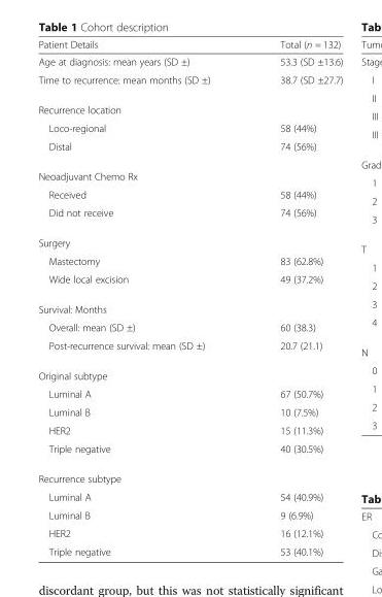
<table><thead><tr><td>Patient Details</td><td>Total (n = 132)</td></tr></thead><tbody><tr><td>Age at diagnosis: mean years (SD ±)</td><td>53.3 (SD ±13.6)</td></tr><tr><td>Time to recurrence: mean months (SD ±)</td><td>38.7 (SD ±27.7)</td></tr><tr><td colspan="2">Recurrence location</td></tr><tr><td>Loco-regional</td><td>58 (44%)</td></tr><tr><td>Distal</td><td>74 (56%)</td></tr><tr><td colspan="2">Neoadjuvant Chemo Rx</td></tr><tr><td>Received</td><td>58 (44%)</td></tr><tr><td>Did not receive</td><td>74 (56%)</td></tr><tr><td colspan="2">Surgery</td></tr><tr><td>Mastectomy</td><td>83 (62.8%)</td></tr><tr><td>Wide local excision</td><td>49 (37.2%)</td></tr><tr><td colspan="2">Survival: Months</td></tr><tr><td>Overall: mean (SD ±)</td><td>60 (38.3)</td></tr><tr><td>Post-recurrence survival: mean (SD ±)</td><td>20.7 (21.1)</td></tr><tr><td colspan="2">Original subtype</td></tr><tr><td>Luminal A</td><td>67 (50.7%)</td></tr><tr><td>Luminal B</td><td>10 (7.5%)</td></tr><tr><td>HER2</td><td>15 (11.3%)</td></tr><tr><td>Triple negative</td><td>40 (30.5%)</td></tr><tr><td colspan="2">Recurrence subtype</td></tr><tr><td>Luminal A</td><td>54 (40.9%)</td></tr><tr><td>Luminal B</td><td>9 (6.9%)</td></tr><tr><td>HER2</td><td>16 (12.1%)</td></tr><tr><td>Triple negative</td><td>53 (40.1%)</td></tr></tbody></table>